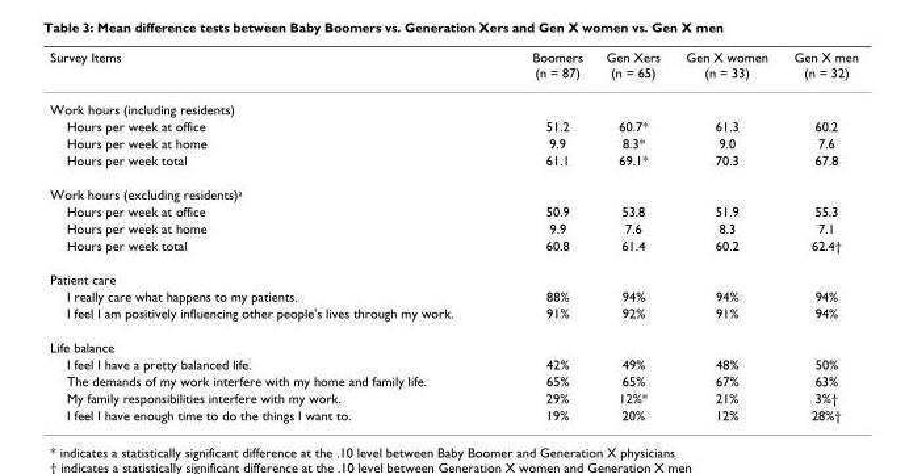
<table><thead><tr><td>Survey Items</td><td>Boomers (n = 87)</td><td>Gen Xers (n = 65)</td><td>Gen X women (n = 33)</td><td>Gen X men (n = 32)</td></tr></thead><tbody><tr><td colspan="5">Work hours (including residents)</td></tr><tr><td>Hours per week at office</td><td>51.2</td><td>60.7*</td><td>61.3</td><td>60.2</td></tr><tr><td>Hours per week at home</td><td>9.9</td><td>8.3*</td><td>9.0</td><td>7.6</td></tr><tr><td>Hours per week total</td><td>61.1</td><td>69.1*</td><td>70.3</td><td>67.8</td></tr><tr><td colspan="5">Work hours (excluding residents)a</td></tr><tr><td>Hours per week at office</td><td>50.9</td><td>53.8</td><td>51.9</td><td>55.3</td></tr><tr><td>Hours per week at home</td><td>9.9</td><td>7.6</td><td>8.3</td><td>7.1</td></tr><tr><td>Hours per week total</td><td>60.8</td><td>61.4</td><td>60.2</td><td>62.4†</td></tr><tr><td colspan="5">Patient care</td></tr><tr><td>I really care what happens to my patients.</td><td>88%</td><td>94%</td><td>94%</td><td>94%</td></tr><tr><td>I feel I am positively influencing other people&#x27;s lives through my work.</td><td>91%</td><td>92%</td><td>91%</td><td>94%</td></tr><tr><td colspan="5">Life balance</td></tr><tr><td>I feel I have a pretty balanced life.</td><td>42%</td><td>49%</td><td>48%</td><td>50%</td></tr><tr><td>The demands of my work interfere with my home and family life.</td><td>65%</td><td>65%</td><td>67%</td><td>63%</td></tr><tr><td>My family responsibilities interfere with my work.</td><td>29%</td><td>12%*</td><td>21%</td><td>3%†</td></tr><tr><td>I feel I have enough time to do the things I want to.</td><td>19%</td><td>20%</td><td>12%</td><td>28%†</td></tr></tbody></table>